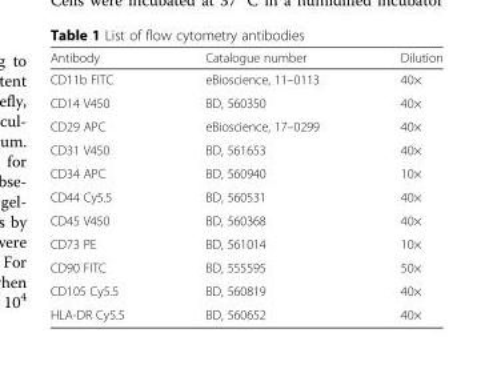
<table><thead><tr><td>Antibody</td><td>Catalogue number</td><td>Dilution</td></tr></thead><tbody><tr><td>CD11b FITC</td><td>eBioscience, 11–0113</td><td>40×</td></tr><tr><td>CD14 V450</td><td>BD, 560350</td><td>40×</td></tr><tr><td>CD29 APC</td><td>eBioscience, 17–0299</td><td>40×</td></tr><tr><td>CD31 V450</td><td>BD, 561653</td><td>40×</td></tr><tr><td>CD34 APC</td><td>BD, 560940</td><td>10×</td></tr><tr><td>CD44 Cy5.5</td><td>BD, 560531</td><td>40×</td></tr><tr><td>CD45 V450</td><td>BD, 560368</td><td>40×</td></tr><tr><td>CD73 PE</td><td>BD, 561014</td><td>10×</td></tr><tr><td>CD90 FITC</td><td>BD, 555595</td><td>50×</td></tr><tr><td>CD105 Cy5.5</td><td>BD, 560819</td><td>40×</td></tr><tr><td>HLA-DR Cy5.5</td><td>BD, 560652</td><td>40×</td></tr></tbody></table>